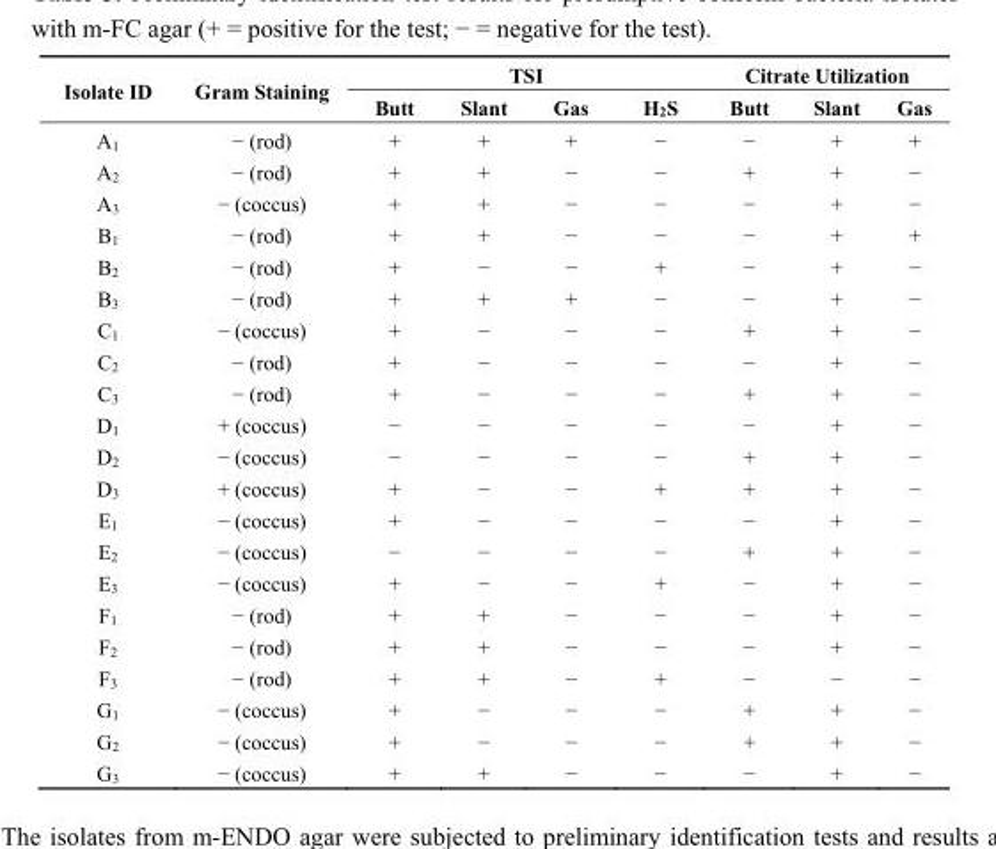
<table><thead><tr><td rowspan="2">Isolate ID</td><td rowspan="2">Gram Staining</td><td colspan="4">TSI</td><td colspan="3">Citrate Utilization</td></tr><tr><td>Butt</td><td>Slant</td><td>Gas</td><td>H<sub>2</sub>S</td><td>Butt</td><td>Slant</td><td>Gas</td></tr></thead><tbody><tr><td>A<sub>1</sub></td><td>− (rod)</td><td>+</td><td>+</td><td>+</td><td>−</td><td>−</td><td>+</td><td>+</td></tr><tr><td>A<sub>2</sub></td><td>− (rod)</td><td>+</td><td>+</td><td>−</td><td>−</td><td>+</td><td>+</td><td>−</td></tr><tr><td>A<sub>3</sub></td><td>− (coccus)</td><td>+</td><td>+</td><td>−</td><td>−</td><td>−</td><td>+</td><td>−</td></tr><tr><td>B<sub>1</sub></td><td>− (rod)</td><td>+</td><td>+</td><td>−</td><td>−</td><td>−</td><td>+</td><td>+</td></tr><tr><td>B<sub>2</sub></td><td>− (rod)</td><td>+</td><td>−</td><td>−</td><td>+</td><td>−</td><td>+</td><td>−</td></tr><tr><td>B<sub>3</sub></td><td>− (rod)</td><td>+</td><td>+</td><td>+</td><td>−</td><td>−</td><td>+</td><td>−</td></tr><tr><td>C<sub>1</sub></td><td>− (coccus)</td><td>+</td><td>−</td><td>−</td><td>−</td><td>+</td><td>+</td><td>−</td></tr><tr><td>C<sub>2</sub></td><td>− (rod)</td><td>+</td><td>−</td><td>−</td><td>−</td><td>−</td><td>+</td><td>−</td></tr><tr><td>C<sub>3</sub></td><td>− (rod)</td><td>+</td><td>−</td><td>−</td><td>−</td><td>+</td><td>+</td><td>−</td></tr><tr><td>D<sub>1</sub></td><td>+ (coccus)</td><td>−</td><td>−</td><td>−</td><td>−</td><td>−</td><td>+</td><td>−</td></tr><tr><td>D<sub>2</sub></td><td>− (coccus)</td><td>−</td><td>−</td><td>−</td><td>−</td><td>+</td><td>+</td><td>−</td></tr><tr><td>D<sub>3</sub></td><td>+ (coccus)</td><td>+</td><td>−</td><td>−</td><td>+</td><td>+</td><td>+</td><td>−</td></tr><tr><td>E<sub>1</sub></td><td>− (coccus)</td><td>+</td><td>−</td><td>−</td><td>−</td><td>−</td><td>+</td><td>−</td></tr><tr><td>E<sub>2</sub></td><td>− (coccus)</td><td>−</td><td>−</td><td>−</td><td>−</td><td>+</td><td>+</td><td>−</td></tr><tr><td>E<sub>3</sub></td><td>− (coccus)</td><td>+</td><td>−</td><td>−</td><td>+</td><td>−</td><td>+</td><td>−</td></tr><tr><td>F<sub>1</sub></td><td>− (rod)</td><td>+</td><td>+</td><td>−</td><td>−</td><td>−</td><td>+</td><td>−</td></tr><tr><td>F<sub>2</sub></td><td>− (rod)</td><td>+</td><td>+</td><td>−</td><td>−</td><td>−</td><td>+</td><td>−</td></tr><tr><td>F<sub>3</sub></td><td>− (rod)</td><td>+</td><td>+</td><td>−</td><td>+</td><td>−</td><td>−</td><td>−</td></tr><tr><td>G<sub>1</sub></td><td>− (coccus)</td><td>+</td><td>−</td><td>−</td><td>−</td><td>+</td><td>+</td><td>−</td></tr><tr><td>G<sub>2</sub></td><td>− (coccus)</td><td>+</td><td>−</td><td>−</td><td>−</td><td>+</td><td>+</td><td>−</td></tr><tr><td>G<sub>3</sub></td><td>− (coccus)</td><td>+</td><td>+</td><td>−</td><td>−</td><td>−</td><td>+</td><td>−</td></tr></tbody></table>